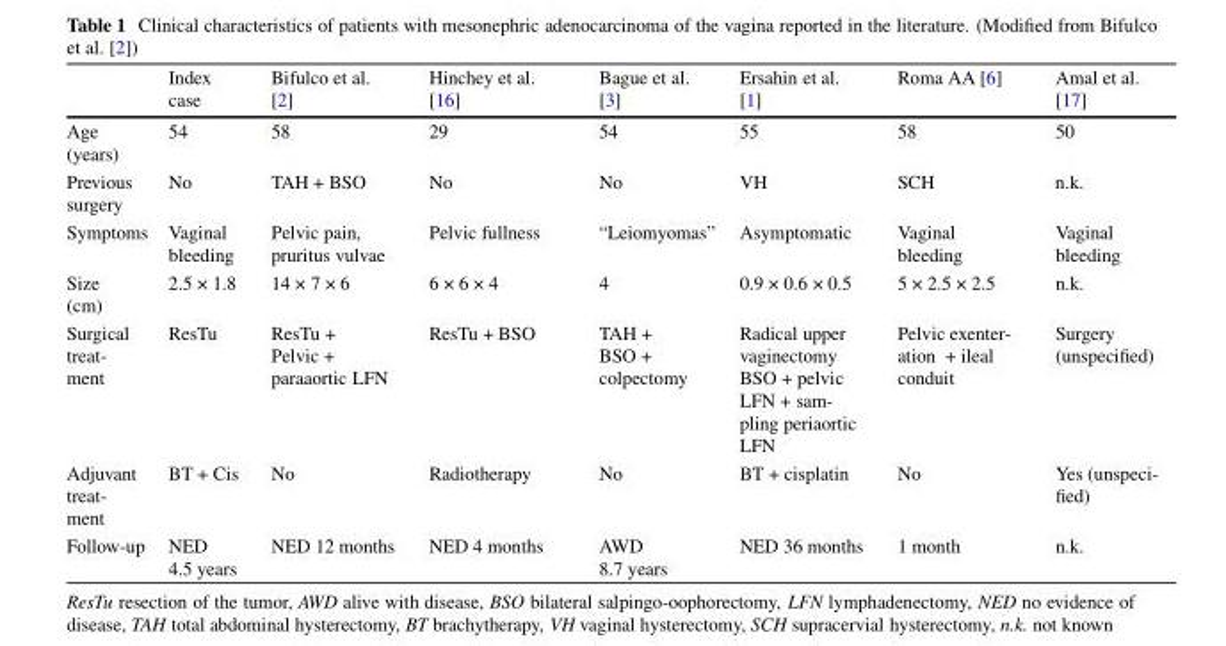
<table><thead><tr><td></td><td>Index case</td><td>Bifulco et al. [2]</td><td>Hinchey et al. [16]</td><td>Bague et al. [3]</td><td>Ersahin et al. [1]</td><td>Roma AA [6]</td><td>Amal et al. [17]</td></tr></thead><tbody><tr><td>Age (years)</td><td>54</td><td>58</td><td>29</td><td>54</td><td>55</td><td>58</td><td>50</td></tr><tr><td>Previous surgery</td><td>No</td><td>TAH + BSO</td><td>No</td><td>No</td><td>VH</td><td>SCH</td><td>n.k.</td></tr><tr><td>Symptoms</td><td>Vaginal bleeding</td><td>Pelvic pain, pruritus vulvae</td><td>Pelvic fullness</td><td>“Leiomyomas”</td><td>Asymptomatic</td><td>Vaginal bleeding</td><td>Vaginal bleeding</td></tr><tr><td>Size (cm)</td><td>2.5 × 1.8</td><td>14 × 7 × 6</td><td>6 × 6 × 4</td><td>4</td><td>0.9 × 0.6 × 0.5</td><td>5 × 2.5 × 2.5</td><td>n.k.</td></tr><tr><td>Surgical treat- ment</td><td>ResTu</td><td>ResTu + Pelvic + paraaortic LFN</td><td>ResTu + BSO</td><td>TAH + BSO + colpectomy</td><td>Radical upper vaginectomy BSO + pelvic LFN + sam- pling periaortic LFN</td><td>Pelvic exenter- ation + ileal conduit</td><td>Surgery (unspecified)</td></tr><tr><td>Adjuvant treat- ment</td><td>BT + Cis</td><td>No</td><td>Radiotherapy</td><td>No</td><td>BT + cisplatin</td><td>No</td><td>Yes (unspeci- fied)</td></tr><tr><td>Follow-up</td><td>NED 4.5 years</td><td>NED 12 months</td><td>NED 4 months</td><td>AWD 8.7 years</td><td>NED 36 months</td><td>1 month</td><td>n.k.</td></tr></tbody></table>